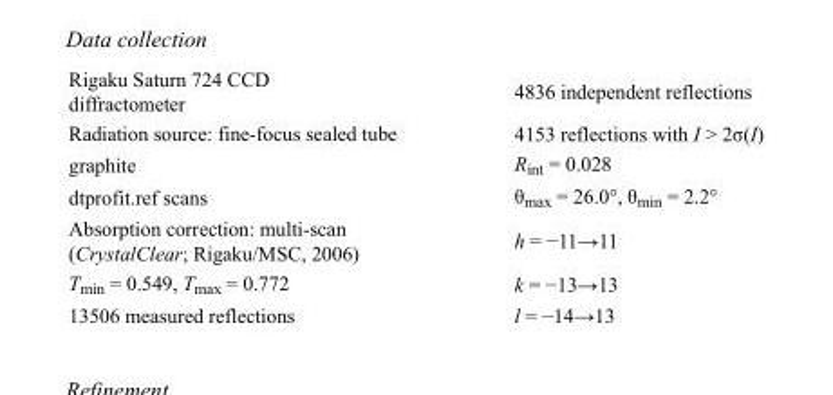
<table><tbody><tr><td>Rigaku Saturn 724 CCD diffractometer</td><td>4836 independent reflections</td></tr><tr><td>Radiation source: fine-focus sealed tube</td><td>4153 reflections with I &gt; 2σ(I)</td></tr><tr><td>graphite</td><td>R<sub>int</sub> = 0.028</td></tr><tr><td>dtprofit.ref scans</td><td>θ<sub>max</sub> = 26.0°, θ<sub>min</sub> = 2.2°</td></tr><tr><td>Absorption correction: multi-scan (CrystalClear; Rigaku/MSC, 2006)</td><td>h = −11→11</td></tr><tr><td>T<sub>min</sub> = 0.549, T<sub>max</sub> = 0.772</td><td>k = −13→13</td></tr><tr><td>13506 measured reflections</td><td>l = −14→13</td></tr></tbody></table>